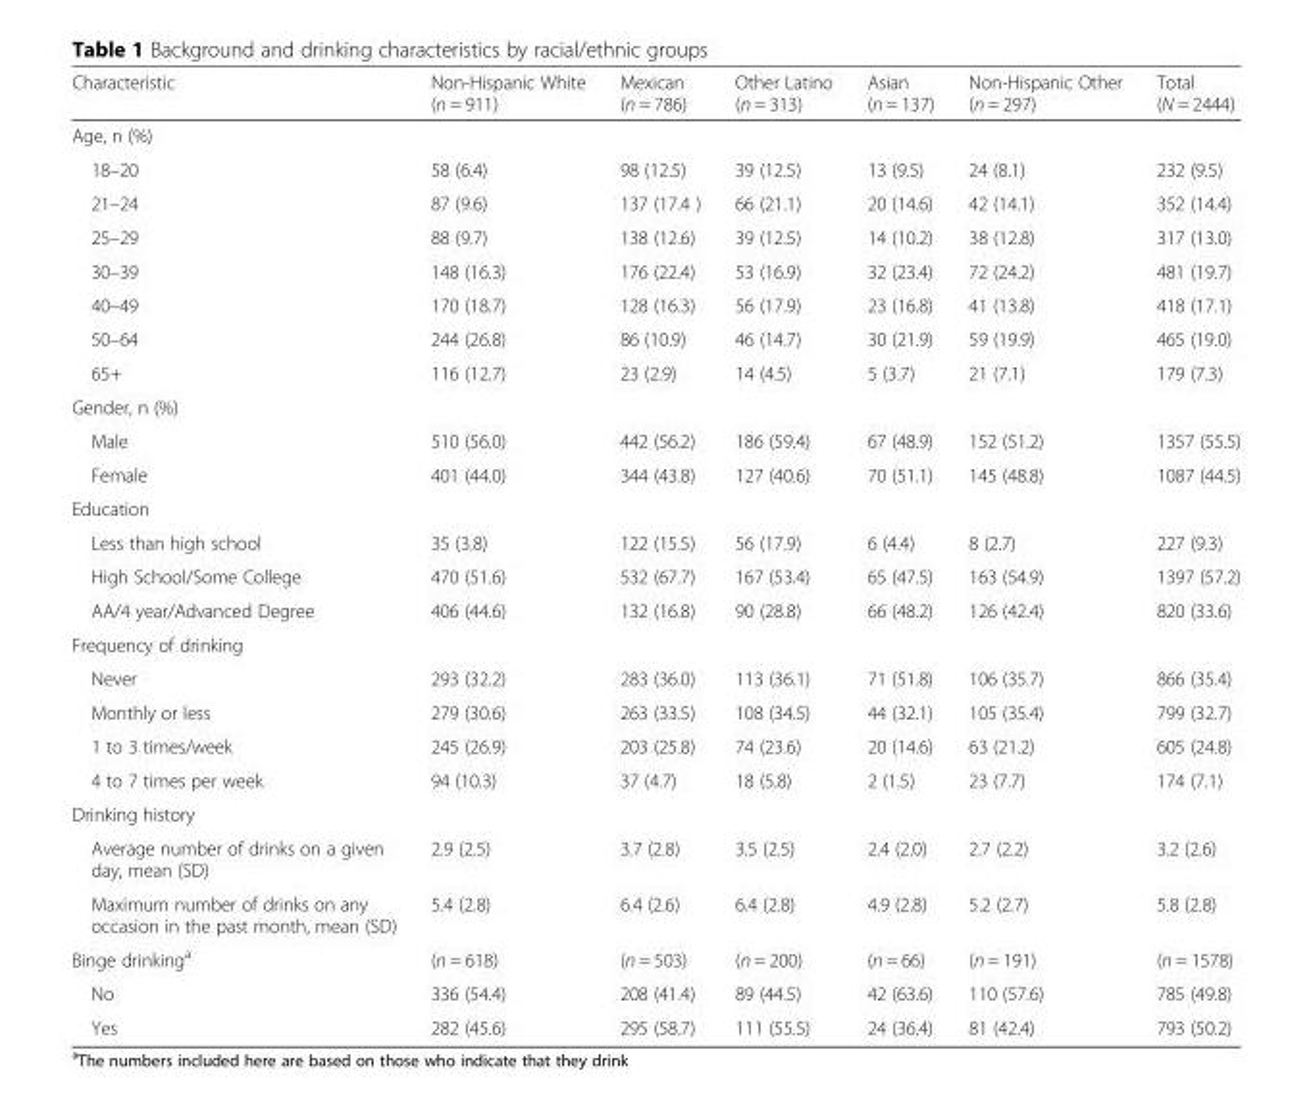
<table><thead><tr><td>Characteristic</td><td>Non-Hispanic White (n = 911)</td><td>Mexican (n = 786)</td><td>Other Latino (n = 313)</td><td>Asian (n = 137)</td><td>Non-Hispanic Other (n = 297)</td><td>Total (N = 2444)</td></tr></thead><tbody><tr><td colspan="7">Age, n (%)</td></tr><tr><td>18–20</td><td>58 (6.4)</td><td>98 (12.5)</td><td>39 (12.5)</td><td>13 (9.5)</td><td>24 (8.1)</td><td>232 (9.5)</td></tr><tr><td>21–24</td><td>87 (9.6)</td><td>137 (17.4 )</td><td>66 (21.1)</td><td>20 (14.6)</td><td>42 (14.1)</td><td>352 (14.4)</td></tr><tr><td>25–29</td><td>88 (9.7)</td><td>138 (12.6)</td><td>39 (12.5)</td><td>14 (10.2)</td><td>38 (12.8)</td><td>317 (13.0)</td></tr><tr><td>30–39</td><td>148 (16.3)</td><td>176 (22.4)</td><td>53 (16.9)</td><td>32 (23.4)</td><td>72 (24.2)</td><td>481 (19.7)</td></tr><tr><td>40–49</td><td>170 (18.7)</td><td>128 (16.3)</td><td>56 (17.9)</td><td>23 (16.8)</td><td>41 (13.8)</td><td>418 (17.1)</td></tr><tr><td>50–64</td><td>244 (26.8)</td><td>86 (10.9)</td><td>46 (14.7)</td><td>30 (21.9)</td><td>59 (19.9)</td><td>465 (19.0)</td></tr><tr><td>65+</td><td>116 (12.7)</td><td>23 (2.9)</td><td>14 (4.5)</td><td>5 (3.7)</td><td>21 (7.1)</td><td>179 (7.3)</td></tr><tr><td colspan="7">Gender, n (%)</td></tr><tr><td>Male</td><td>510 (56.0)</td><td>442 (56.2)</td><td>186 (59.4)</td><td>67 (48.9)</td><td>152 (51.2)</td><td>1357 (55.5)</td></tr><tr><td>Female</td><td>401 (44.0)</td><td>344 (43.8)</td><td>127 (40.6)</td><td>70 (51.1)</td><td>145 (48.8)</td><td>1087 (44.5)</td></tr><tr><td colspan="7">Education</td></tr><tr><td>Less than high school</td><td>35 (3.8)</td><td>122 (15.5)</td><td>56 (17.9)</td><td>6 (4.4)</td><td>8 (2.7)</td><td>227 (9.3)</td></tr><tr><td>High School/Some College</td><td>470 (51.6)</td><td>532 (67.7)</td><td>167 (53.4)</td><td>65 (47.5)</td><td>163 (54.9)</td><td>1397 (57.2)</td></tr><tr><td>AA/4 year/Advanced Degree</td><td>406 (44.6)</td><td>132 (16.8)</td><td>90 (28.8)</td><td>66 (48.2)</td><td>126 (42.4)</td><td>820 (33.6)</td></tr><tr><td colspan="7">Frequency of drinking</td></tr><tr><td>Never</td><td>293 (32.2)</td><td>283 (36.0)</td><td>113 (36.1)</td><td>71 (51.8)</td><td>106 (35.7)</td><td>866 (35.4)</td></tr><tr><td>Monthly or less</td><td>279 (30.6)</td><td>263 (33.5)</td><td>108 (34.5)</td><td>44 (32.1)</td><td>105 (35.4)</td><td>799 (32.7)</td></tr><tr><td>1 to 3 times/week</td><td>245 (26.9)</td><td>203 (25.8)</td><td>74 (23.6)</td><td>20 (14.6)</td><td>63 (21.2)</td><td>605 (24.8)</td></tr><tr><td>4 to 7 times per week</td><td>94 (10.3)</td><td>37 (4.7)</td><td>18 (5.8)</td><td>2 (1.5)</td><td>23 (7.7)</td><td>174 (7.1)</td></tr><tr><td colspan="7">Drinking history</td></tr><tr><td>Average number of drinks on a given day, mean (SD)</td><td>2.9 (2.5)</td><td>3.7 (2.8)</td><td>3.5 (2.5)</td><td>2.4 (2.0)</td><td>2.7 (2.2)</td><td>3.2 (2.6)</td></tr><tr><td>Maximum number of drinks on any occasion in the past month, mean (SD)</td><td>5.4 (2.8)</td><td>6.4 (2.6)</td><td>6.4 (2.8)</td><td>4.9 (2.8)</td><td>5.2 (2.7)</td><td>5.8 (2.8)</td></tr><tr><td>Binge drinking<sup>a</sup></td><td>(n = 618)</td><td>(n = 503)</td><td>(n = 200)</td><td>(n = 66)</td><td>(n = 191)</td><td>(n = 1578)</td></tr><tr><td>No</td><td>336 (54.4)</td><td>208 (41.4)</td><td>89 (44.5)</td><td>42 (63.6)</td><td>110 (57.6)</td><td>785 (49.8)</td></tr><tr><td>Yes</td><td>282 (45.6)</td><td>295 (58.7)</td><td>111 (55.5)</td><td>24 (36.4)</td><td>81 (42.4)</td><td>793 (50.2)</td></tr></tbody></table>